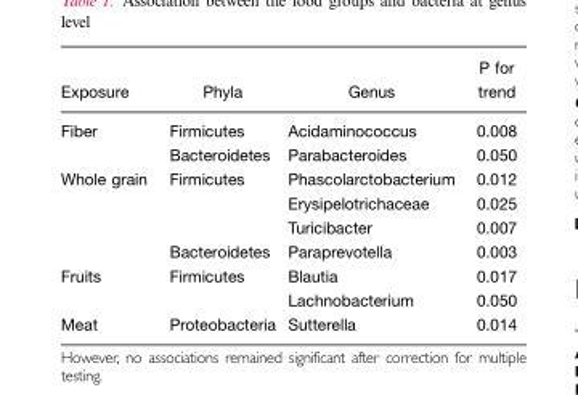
<table><thead><tr><td>Exposure</td><td>Phyla</td><td>Genus</td><td>P for trend</td></tr></thead><tbody><tr><td rowspan="2">Fiber</td><td>Firmicutes</td><td>Acidaminococcus</td><td>0.008</td></tr><tr><td>Bacteroidetes</td><td>Parabacteroides</td><td>0.050</td></tr><tr><td rowspan="4">Whole grain</td><td>Firmicutes</td><td>Phascolarctobacterium</td><td>0.012</td></tr><tr><td></td><td>Erysipelotrichaceae</td><td>0.025</td></tr><tr><td></td><td>Turicibacter</td><td>0.007</td></tr><tr><td>Bacteroidetes</td><td>Paraprevotella</td><td>0.003</td></tr><tr><td rowspan="2">Fruits</td><td>Firmicutes</td><td>Blautia</td><td>0.017</td></tr><tr><td></td><td>Lachnobacterium</td><td>0.050</td></tr><tr><td>Meat</td><td>Proteobacteria</td><td>Sutterella</td><td>0.014</td></tr></tbody></table>